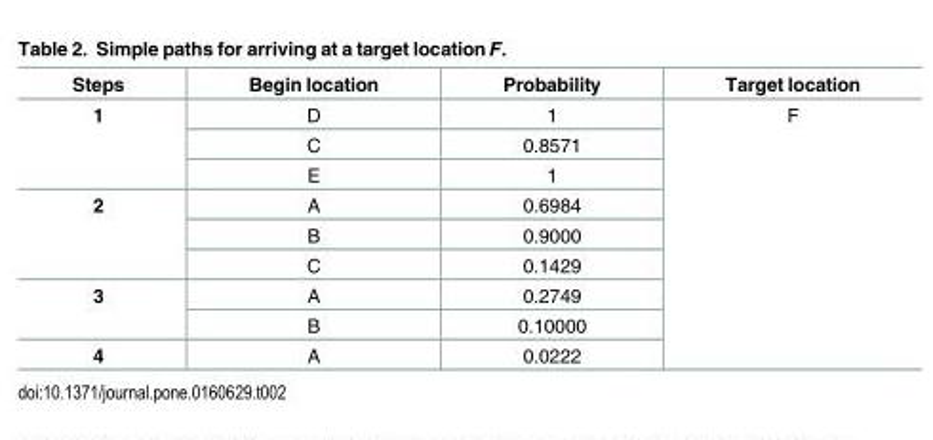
<table><thead><tr><td>Steps</td><td>Begin location</td><td>Probability</td><td>Target location</td></tr></thead><tbody><tr><td rowspan="3">1</td><td>D</td><td>1</td><td rowspan="9">F</td></tr><tr><td>C</td><td>0.8571</td></tr><tr><td>E</td><td>1</td></tr><tr><td rowspan="3">2</td><td>A</td><td>0.6984</td></tr><tr><td>B</td><td>0.9000</td></tr><tr><td>C</td><td>0.1429</td></tr><tr><td rowspan="2">3</td><td>A</td><td>0.2749</td></tr><tr><td>B</td><td>0.10000</td></tr><tr><td>4</td><td>A</td><td>0.0222</td></tr></tbody></table>